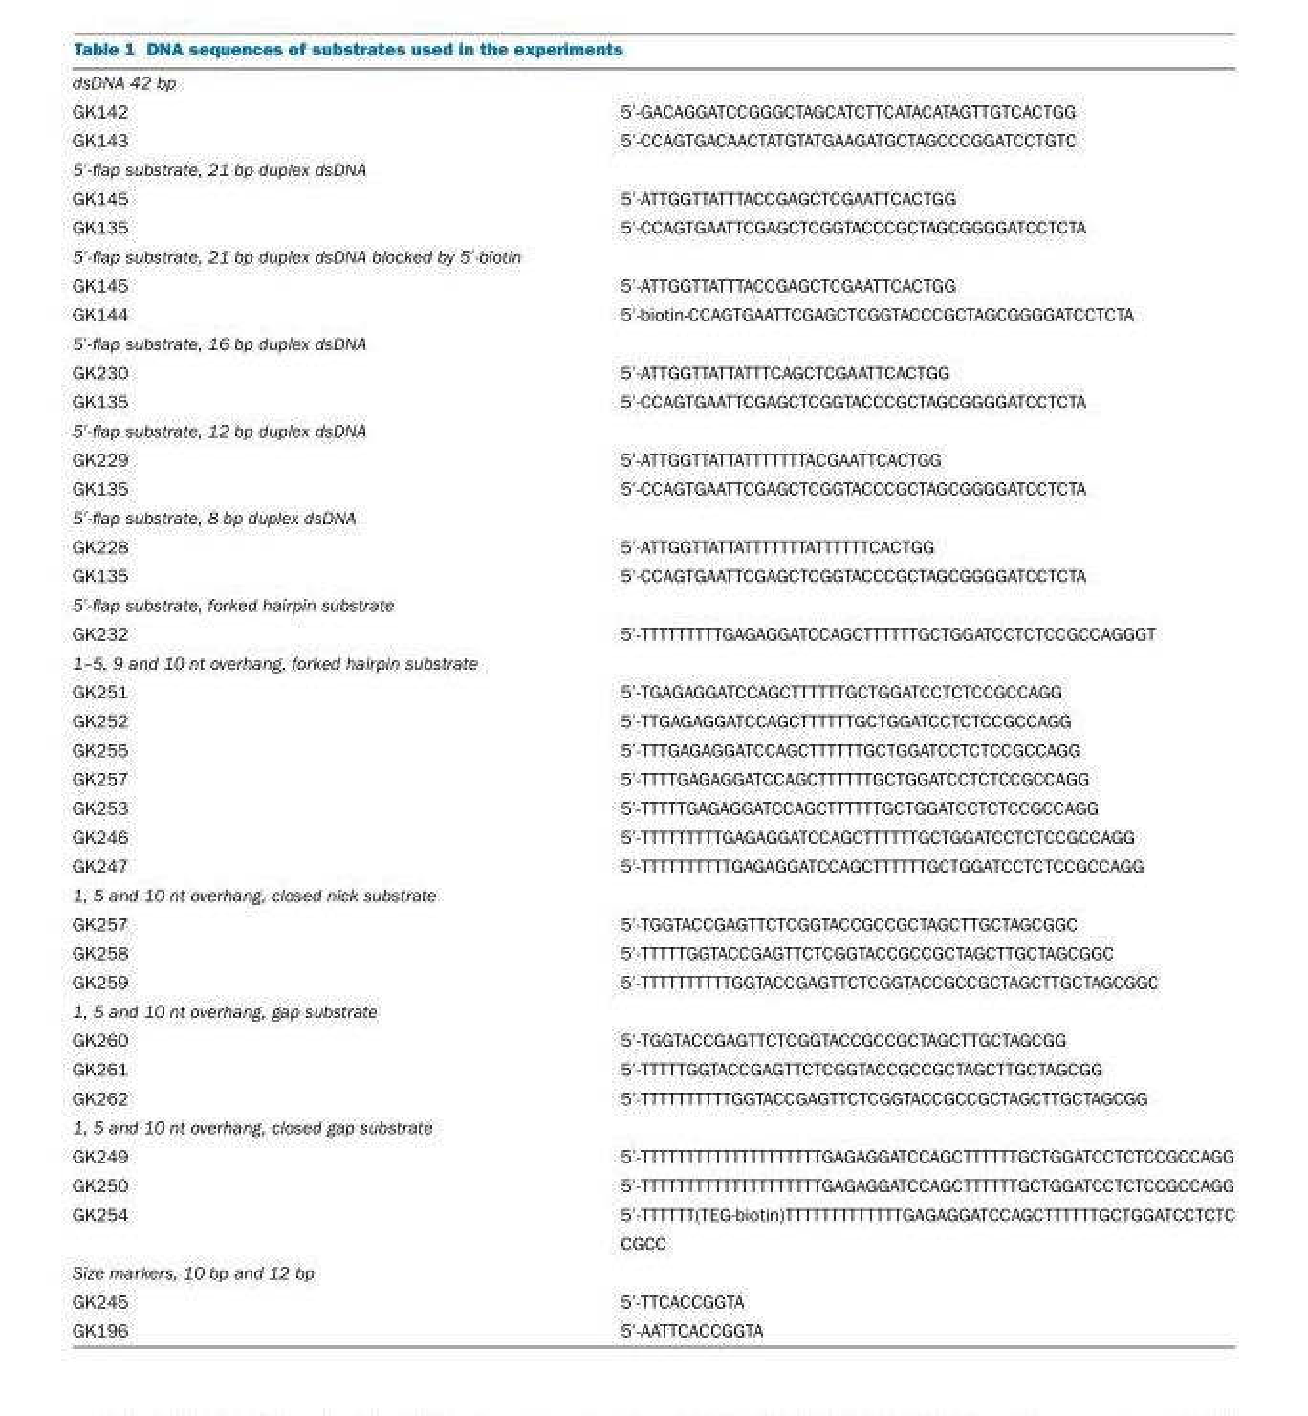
<table><tbody><tr><td colspan="2">dsDNA 42 bp</td></tr><tr><td>GK142</td><td>5′-GACAGGATCCGGGCTAGCATCTTCATACATAGTTGTCACTGG</td></tr><tr><td>GK143</td><td>5′-CCAGTGACAACTATGTATGAAGATGCTAGCCCGGATCCTGTC</td></tr><tr><td colspan="2">5′-flap substrate, 21 bp duplex dsDNA</td></tr><tr><td>GK145</td><td>5′-ATTGGTTATTTACCGAGCTCGAATTCACTGG</td></tr><tr><td>GK135</td><td>5′-CCAGTGAATTCGAGCTCGGTACCCGCTAGCGGGGATCCTCTA</td></tr><tr><td colspan="2">5′-flap substrate, 21 bp duplex dsDNA blocked by 5′-biotin</td></tr><tr><td>GK145</td><td>5′-ATTGGTTATTTACCGAGCTCGAATTCACTGG</td></tr><tr><td>GK144</td><td>5′-biotin-CCAGTGAATTCGAGCTCGGTACCCGCTAGCGGGGATCCTCTA</td></tr><tr><td colspan="2">5′-flap substrate, 16 bp duplex dsDNA</td></tr><tr><td>GK230</td><td>5′-ATTGGTTATTATTTCAGCTCGAATTCACTGG</td></tr><tr><td>GK135</td><td>5′-CCAGTGAATTCGAGCTCGGTACCCGCTAGCGGGGATCCTCTA</td></tr><tr><td colspan="2">5′-flap substrate, 12 bp duplex dsDNA</td></tr><tr><td>GK229</td><td>5′-ATTGGTTATTATTTTTTTACGAATTCACTGG</td></tr><tr><td>GK135</td><td>5′-CCAGTGAATTCGAGCTCGGTACCCGCTAGCGGGGATCCTCTA</td></tr><tr><td colspan="2">5′-flap substrate, 8 bp duplex dsDNA</td></tr><tr><td>GK228</td><td>5′-ATTGGTTATTATTTTTTTATTTTTTCACTGG</td></tr><tr><td>GK135</td><td>5′-CCAGTGAATTCGAGCTCGGTACCCGCTAGCGGGGATCCTCTA</td></tr><tr><td colspan="2">5′-flap substrate, forked hairpin substrate</td></tr><tr><td>GK232</td><td>5′-TTTTTTTTTGAGAGGATCCAGCTTTTTTGCTGGATCCTCTCCGCCAGGGT</td></tr><tr><td colspan="2">1–5, 9 and 10 nt overhang, forked hairpin substrate</td></tr><tr><td>GK251</td><td>5′-TGAGAGGATCCAGCTTTTTTGCTGGATCCTCTCCGCCAGG</td></tr><tr><td>GK252</td><td>5′-TTGAGAGGATCCAGCTTTTTTGCTGGATCCTCTCCGCCAGG</td></tr><tr><td>GK255</td><td>5′-TTTGAGAGGATCCAGCTTTTTTGCTGGATCCTCTCCGCCAGG</td></tr><tr><td>GK257</td><td>5′-TTTTGAGAGGATCCAGCTTTTTTGCTGGATCCTCTCCGCCAGG</td></tr><tr><td>GK253</td><td>5′-TTTTTGAGAGGATCCAGCTTTTTTGCTGGATCCTCTCCGCCAGG</td></tr><tr><td>GK246</td><td>5′-TTTTTTTTTGAGAGGATCCAGCTTTTTTGCTGGATCCTCTCCGCCAGG</td></tr><tr><td>GK247</td><td>5′-TTTTTTTTTTGAGAGGATCCAGCTTTTTTGCTGGATCCTCTCCGCCAGG</td></tr><tr><td colspan="2">1, 5 and 10 nt overhang, closed nick substrate</td></tr><tr><td>GK257</td><td>5′-TGGTACCGAGTTCTCGGTACCGCCGCTAGCTTGCTAGCGGC</td></tr><tr><td>GK258</td><td>5′-TTTTTGGTACCGAGTTCTCGGTACCGCCGCTAGCTTGCTAGCGGC</td></tr><tr><td>GK259</td><td>5′-TTTTTTTTTTGGTACCGAGTTCTCGGTACCGCCGCTAGCTTGCTAGCGGC</td></tr><tr><td colspan="2">1, 5 and 10 nt overhang, gap substrate</td></tr><tr><td>GK260</td><td>5′-TGGTACCGAGTTCTCGGTACCGCCGCTAGCTTGCTAGCGG</td></tr><tr><td>GK261</td><td>5′-TTTTTGGTACCGAGTTCTCGGTACCGCCGCTAGCTTGCTAGCGG</td></tr><tr><td>GK262</td><td>5′-TTTTTTTTTTGGTACCGAGTTCTCGGTACCGCCGCTAGCTTGCTAGCGG</td></tr><tr><td colspan="2">1, 5 and 10 nt overhang, closed gap substrate</td></tr><tr><td>GK249</td><td>5′-TTTTTTTTTTTTTTTTTTTTGAGAGGATCCAGCTTTTTTGCTGGATCCTCTCCGCCAGG</td></tr><tr><td>GK250</td><td>5′-TTTTTTTTTTTTTTTTTTTTGAGAGGATCCAGCTTTTTTGCTGGATCCTCTCCGCCAGG</td></tr><tr><td>GK254</td><td>5′-TTTTTT(TEG-biotin)TTTTTTTTTTTTTGAGAGGATCCAGCTTTTTTGCTGGATCCTCTC CGCC</td></tr><tr><td colspan="2">Size markers, 10 bp and 12 bp</td></tr><tr><td>GK245</td><td>5′-TTCACCGGTA</td></tr><tr><td>GK196</td><td>5′-AATTCACCGGTA</td></tr></tbody></table>